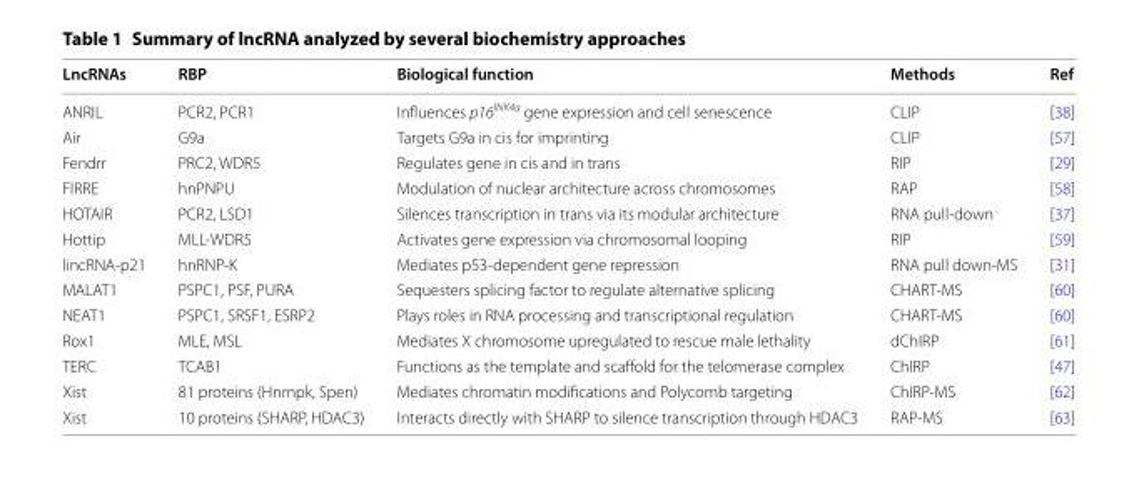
<table><thead><tr><td>LncRNAs</td><td>RBP</td><td>Biological function</td><td>Methods</td><td>Ref</td></tr></thead><tbody><tr><td>ANRIL</td><td>PCR2, PCR1</td><td>Influences p16<sup>INK4a</sup> gene expression and cell senescence</td><td>CLIP</td><td>[38]</td></tr><tr><td>Air</td><td>G9a</td><td>Targets G9a in cis for imprinting</td><td>CLIP</td><td>[57]</td></tr><tr><td>Fendrr</td><td>PRC2, WDR5</td><td>Regulates gene in cis and in trans</td><td>RIP</td><td>[29]</td></tr><tr><td>FIRRE</td><td>hnPNPU</td><td>Modulation of nuclear architecture across chromosomes</td><td>RAP</td><td>[58]</td></tr><tr><td>HOTAIR</td><td>PCR2, LSD1</td><td>Silences transcription in trans via its modular architecture</td><td>RNA pull-down</td><td>[37]</td></tr><tr><td>Hottip</td><td>MLL-WDR5</td><td>Activates gene expression via chromosomal looping</td><td>RIP</td><td>[59]</td></tr><tr><td>lincRNA-p21</td><td>hnRNP-K</td><td>Mediates p53-dependent gene repression</td><td>RNA pull down-MS</td><td>[31]</td></tr><tr><td>MALAT1</td><td>PSPC1, PSF, PURA</td><td>Sequesters splicing factor to regulate alternative splicing</td><td>CHART-MS</td><td>[60]</td></tr><tr><td>NEAT1</td><td>PSPC1, SRSF1, ESRP2</td><td>Plays roles in RNA processing and transcriptional regulation</td><td>CHART-MS</td><td>[60]</td></tr><tr><td>Rox1</td><td>MLE, MSL</td><td>Mediates X chromosome upregulated to rescue male lethality</td><td>dChIRP</td><td>[61]</td></tr><tr><td>TERC</td><td>TCAB1</td><td>Functions as the template and scaffold for the telomerase complex</td><td>ChIRP</td><td>[47]</td></tr><tr><td>Xist</td><td>81 proteins (Hnrnpk, Spen)</td><td>Mediates chromatin modifications and Polycomb targeting</td><td>ChIRP-MS</td><td>[62]</td></tr><tr><td>Xist</td><td>10 proteins (SHARP, HDAC3)</td><td>Interacts directly with SHARP to silence transcription through HDAC3</td><td>RAP-MS</td><td>[63]</td></tr></tbody></table>